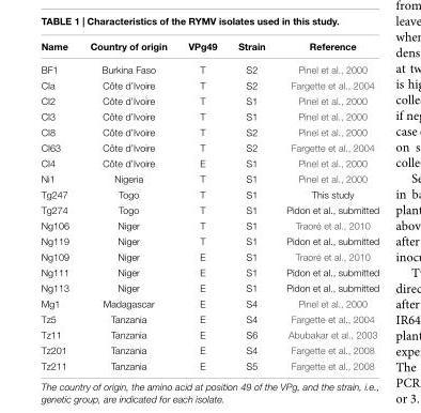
<table><thead><tr><td>Name</td><td>Country of origin</td><td>VPg49</td><td>Strain</td><td>Reference</td></tr></thead><tbody><tr><td>BF1</td><td>Burkina Faso</td><td>T</td><td>S2</td><td>Pinel et al., 2000</td></tr><tr><td>CIa</td><td>Côte d’Ivoire</td><td>T</td><td>S2</td><td>Fargette et al., 2004</td></tr><tr><td>CI2</td><td>Côte d’Ivoire</td><td>T</td><td>S1</td><td>Pinel et al., 2000</td></tr><tr><td>CI3</td><td>Côte d’Ivoire</td><td>T</td><td>S1</td><td>Pinel et al., 2000</td></tr><tr><td>CI8</td><td>Côte d’Ivoire</td><td>T</td><td>S2</td><td>Pinel et al., 2000</td></tr><tr><td>CI63</td><td>Côte d’Ivoire</td><td>T</td><td>S2</td><td>Fargette et al., 2004</td></tr><tr><td>CI4</td><td>Côte d’Ivoire</td><td>E</td><td>S1</td><td>Pinel et al., 2000</td></tr><tr><td>Ni1</td><td>Nigeria</td><td>T</td><td>S1</td><td>Pinel et al., 2000</td></tr><tr><td>Tg247</td><td>Togo</td><td>T</td><td>S1</td><td>This study</td></tr><tr><td>Tg274</td><td>Togo</td><td>T</td><td>S1</td><td>Pidon et al., submitted</td></tr><tr><td>Ng106</td><td>Niger</td><td>T</td><td>S1</td><td>Traoré et al., 2010</td></tr><tr><td>Ng119</td><td>Niger</td><td>T</td><td>S1</td><td>Pidon et al., submitted</td></tr><tr><td>Ng109</td><td>Niger</td><td>E</td><td>S1</td><td>Traoré et al., 2010</td></tr><tr><td>Ng111</td><td>Niger</td><td>E</td><td>S1</td><td>Pidon et al., submitted</td></tr><tr><td>Ng113</td><td>Niger</td><td>E</td><td>S1</td><td>Pidon et al., submitted</td></tr><tr><td>Mg1</td><td>Madagascar</td><td>E</td><td>S4</td><td>Pinel et al., 2000</td></tr><tr><td>Tz5</td><td>Tanzania</td><td>E</td><td>S4</td><td>Fargette et al., 2004</td></tr><tr><td>Tz11</td><td>Tanzania</td><td>E</td><td>S6</td><td>Abubakar et al., 2003</td></tr><tr><td>Tz201</td><td>Tanzania</td><td>E</td><td>S4</td><td>Fargette et al., 2008</td></tr><tr><td>Tz211</td><td>Tanzania</td><td>E</td><td>S5</td><td>Fargette et al., 2008</td></tr></tbody></table>